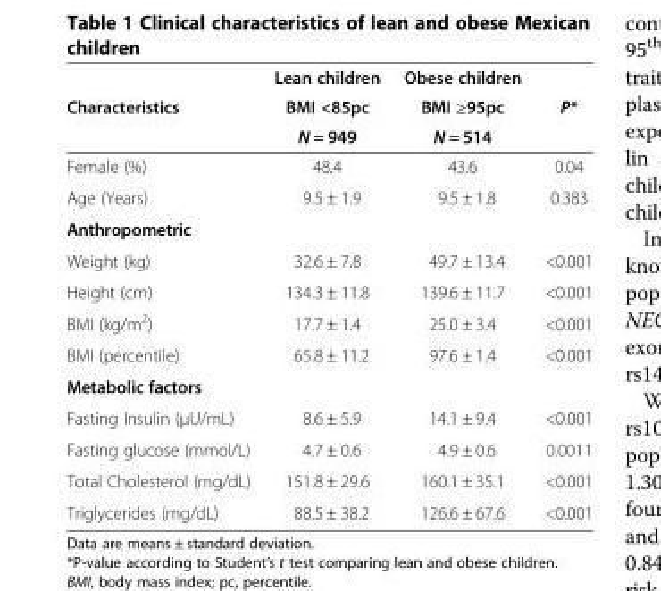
<table><thead><tr><td rowspan="3">Characteristics</td><td rowspan="3">Lean children BMI &lt;85pc N = 949</td><td rowspan="3">Obese children BMI ≥95pc N = 514</td><td rowspan="3">P*</td></tr><tr></tr><tr></tr></thead><tbody><tr><td>Female (%)</td><td>48.4</td><td>43.6</td><td>0.04</td></tr><tr><td>Age (Years)</td><td>9.5 ± 1.9</td><td>9.5 ± 1.8</td><td>0.383</td></tr><tr><td colspan="4">Anthropometric</td></tr><tr><td>Weight (kg)</td><td>32.6 ± 7.8</td><td>49.7 ± 13.4</td><td>&lt;0.001</td></tr><tr><td>Height (cm)</td><td>134.3 ± 11.8</td><td>139.6 ± 11.7</td><td>&lt;0.001</td></tr><tr><td>BMI (kg/m<sup>2</sup>)</td><td>17.7 ± 1.4</td><td>25.0 ± 3.4</td><td>&lt;0.001</td></tr><tr><td>BMI (percentile)</td><td>65.8 ± 11.2</td><td>97.6 ± 1.4</td><td>&lt;0.001</td></tr><tr><td colspan="4">Metabolic factors</td></tr><tr><td>Fasting Insulin (μU/mL)</td><td>8.6 ± 5.9</td><td>14.1 ± 9.4</td><td>&lt;0.001</td></tr><tr><td>Fasting glucose (mmol/L)</td><td>4.7 ± 0.6</td><td>4.9 ± 0.6</td><td>0.0011</td></tr><tr><td>Total Cholesterol (mg/dL)</td><td>151.8 ± 29.6</td><td>160.1 ± 35.1</td><td>&lt;0.001</td></tr><tr><td>Triglycerides (mg/dL)</td><td>88.5 ± 38.2</td><td>126.6 ± 67.6</td><td>&lt;0.001</td></tr></tbody></table>